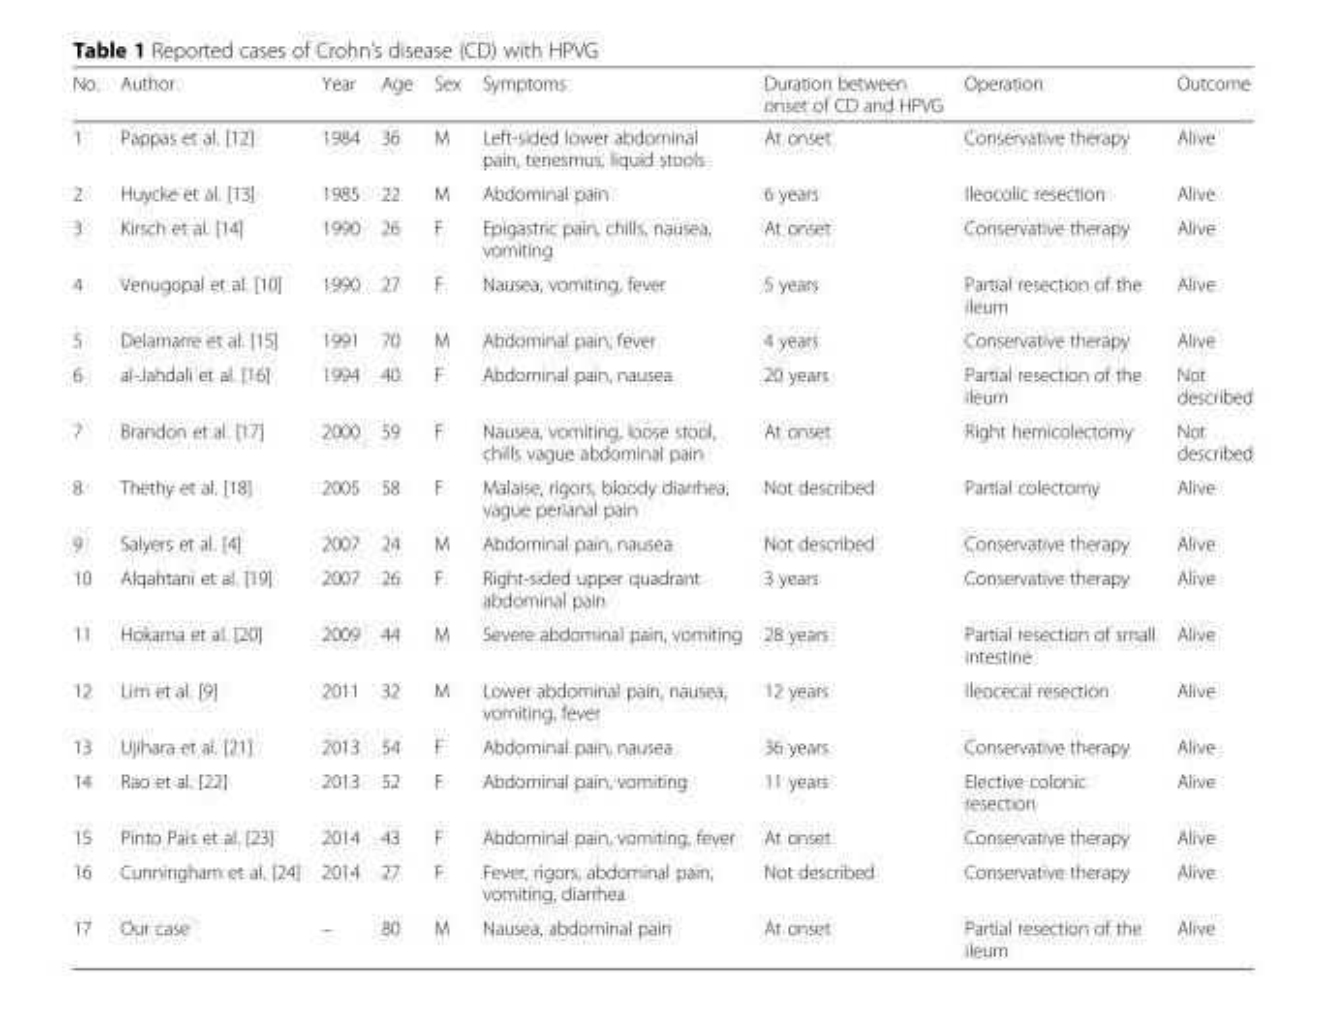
<table><thead><tr><td>No.</td><td>Author</td><td>Year</td><td>Age</td><td>Sex</td><td>Symptoms</td><td>Duration between onset of CD and HPVG</td><td>Operation</td><td>Outcome</td></tr></thead><tbody><tr><td>1</td><td>Pappas et al. [12]</td><td>1984</td><td>36</td><td>M</td><td>Left-sided lower abdominal pain, tenesmus, liquid stools</td><td>At onset</td><td>Conservative therapy</td><td>Alive</td></tr><tr><td>2</td><td>Huycke et al. [13]</td><td>1985</td><td>22</td><td>M</td><td>Abdominal pain</td><td>6 years</td><td>Ileocolic resection</td><td>Alive</td></tr><tr><td>3</td><td>Kirsch et al. [14]</td><td>1990</td><td>26</td><td>F</td><td>Epigastric pain, chills, nausea, vomiting</td><td>At onset</td><td>Conservative therapy</td><td>Alive</td></tr><tr><td>4</td><td>Venugopal et al. [10]</td><td>1990</td><td>27</td><td>F</td><td>Nausea, vomiting, fever</td><td>5 years</td><td>Partial resection of the ileum</td><td>Alive</td></tr><tr><td>5</td><td>Delamarre et al. [15]</td><td>1991</td><td>70</td><td>M</td><td>Abdominal pain, fever</td><td>4 years</td><td>Conservative therapy</td><td>Alive</td></tr><tr><td>6</td><td>al-Jahdali et al. [16]</td><td>1994</td><td>40</td><td>F</td><td>Abdominal pain, nausea</td><td>20 years</td><td>Partial resection of the ileum</td><td>Not described</td></tr><tr><td>7</td><td>Brandon et al. [17]</td><td>2000</td><td>59</td><td>F</td><td>Nausea, vomiting, loose stool, chills vague abdominal pain</td><td>At onset</td><td>Right hemicolectomy</td><td>Not described</td></tr><tr><td>8</td><td>Thethy et al. [18]</td><td>2005</td><td>58</td><td>F</td><td>Malaise, rigors, bloody diarrhea, vague perianal pain</td><td>Not described</td><td>Partial colectomy</td><td>Alive</td></tr><tr><td>9</td><td>Salyers et al. [4]</td><td>2007</td><td>24</td><td>M</td><td>Abdominal pain, nausea</td><td>Not described</td><td>Conservative therapy</td><td>Alive</td></tr><tr><td>10</td><td>Alqahtani et al. [19]</td><td>2007</td><td>26</td><td>F</td><td>Right-sided upper quadrant abdominal pain</td><td>3 years</td><td>Conservative therapy</td><td>Alive</td></tr><tr><td>11</td><td>Hokama et al. [20]</td><td>2009</td><td>44</td><td>M</td><td>Severe abdominal pain, vomiting</td><td>28 years</td><td>Partial resection of small intestine</td><td>Alive</td></tr><tr><td>12</td><td>Lim et al. [9]</td><td>2011</td><td>32</td><td>M</td><td>Lower abdominal pain, nausea, vomiting, fever</td><td>12 years</td><td>Ileocecal resection</td><td>Alive</td></tr><tr><td>13</td><td>Ujihara et al. [21]</td><td>2013</td><td>54</td><td>F</td><td>Abdominal pain, nausea</td><td>36 years</td><td>Conservative therapy</td><td>Alive</td></tr><tr><td>14</td><td>Rao et al. [22]</td><td>2013</td><td>52</td><td>F</td><td>Abdominal pain, vomiting</td><td>11 years</td><td>Elective colonic resection</td><td>Alive</td></tr><tr><td>15</td><td>Pinto Pais et al. [23]</td><td>2014</td><td>43</td><td>F</td><td>Abdominal pain, vomiting, fever</td><td>At onset</td><td>Conservative therapy</td><td>Alive</td></tr><tr><td>16</td><td>Cunningham et al. [24]</td><td>2014</td><td>27</td><td>F</td><td>Fever, rigors, abdominal pain, vomiting, diarrhea</td><td>Not described</td><td>Conservative therapy</td><td>Alive</td></tr><tr><td>17</td><td>Our case</td><td>–</td><td>80</td><td>M</td><td>Nausea, abdominal pain</td><td>At onset</td><td>Partial resection of the ileum</td><td>Alive</td></tr></tbody></table>